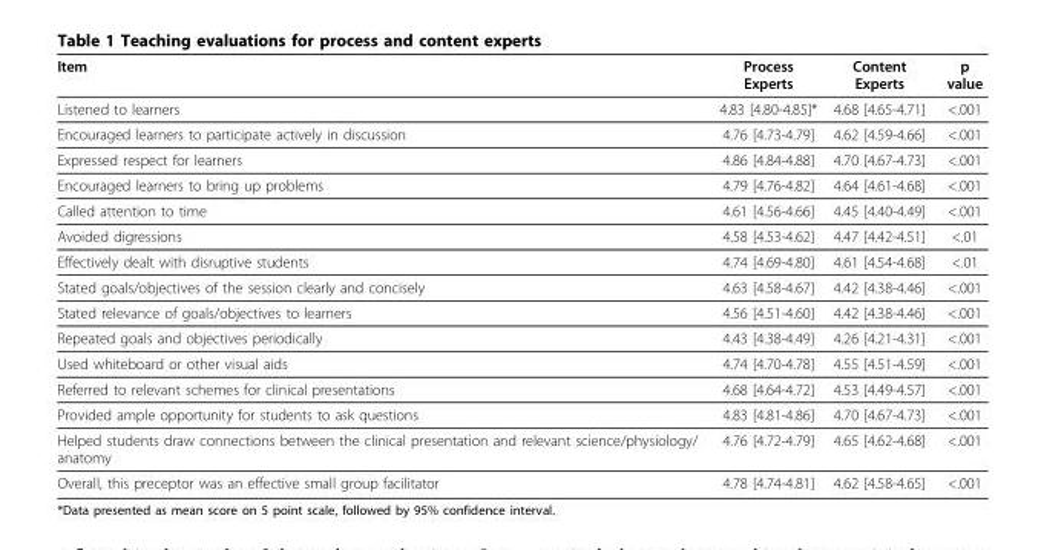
<table><thead><tr><td>Item</td><td>Process Experts</td><td>Content Experts</td><td>p value</td></tr></thead><tbody><tr><td>Listened to learners</td><td>4.83 [4.80-4.85]*</td><td>4.68 [4.65-4.71]</td><td>&lt;.001</td></tr><tr><td>Encouraged learners to participate actively in discussion</td><td>4.76 [4.73-4.79]</td><td>4.62 [4.59-4.66]</td><td>&lt;.001</td></tr><tr><td>Expressed respect for learners</td><td>4.86 [4.84-4.88]</td><td>4.70 [4.67-4.73]</td><td>&lt;.001</td></tr><tr><td>Encouraged learners to bring up problems</td><td>4.79 [4.76-4.82]</td><td>4.64 [4.61-4.68]</td><td>&lt;.001</td></tr><tr><td>Called attention to time</td><td>4.61 [4.56-4.66]</td><td>4.45 [4.40-4.49]</td><td>&lt;.001</td></tr><tr><td>Avoided digressions</td><td>4.58 [4.53-4.62]</td><td>4.47 [4.42-4.51]</td><td>&lt;.01</td></tr><tr><td>Effectively dealt with disruptive students</td><td>4.74 [4.69-4.80]</td><td>4.61 [4.54-4.68]</td><td>&lt;.01</td></tr><tr><td>Stated goals/objectives of the session clearly and concisely</td><td>4.63 [4.58-4.67]</td><td>4.42 [4.38-4.46]</td><td>&lt;.001</td></tr><tr><td>Stated relevance of goals/objectives to learners</td><td>4.56 [4.51-4.60]</td><td>4.42 [4.38-4.46]</td><td>&lt;.001</td></tr><tr><td>Repeated goals and objectives periodically</td><td>4.43 [4.38-4.49]</td><td>4.26 [4.21-4.31]</td><td>&lt;.001</td></tr><tr><td>Used whiteboard or other visual aids</td><td>4.74 [4.70-4.78]</td><td>4.55 [4.51-4.59]</td><td>&lt;.001</td></tr><tr><td>Referred to relevant schemes for clinical presentations</td><td>4.68 [4.64-4.72]</td><td>4.53 [4.49-4.57]</td><td>&lt;.001</td></tr><tr><td>Provided ample opportunity for students to ask questions</td><td>4.83 [4.81-4.86]</td><td>4.70 [4.67-4.73]</td><td>&lt;.001</td></tr><tr><td>Helped students draw connections between the clinical presentation and relevant science/physiology/ anatomy</td><td>4.76 [4.72-4.79]</td><td>4.65 [4.62-4.68]</td><td>&lt;.001</td></tr><tr><td>Overall, this preceptor was an effective small group facilitator</td><td>4.78 [4.74-4.81]</td><td>4.62 [4.58-4.65]</td><td>&lt;.001</td></tr></tbody></table>